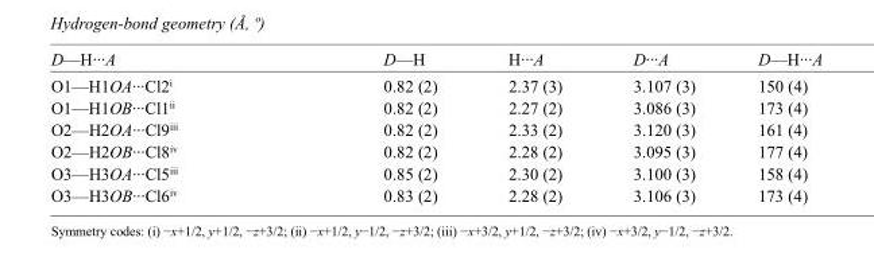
<table><tbody><tr><td>D—H···A</td><td>D—H</td><td>H···A</td><td>D···A</td><td>D—H···A</td></tr><tr><td>O1—H1OA···Cl2<sup>i</sup></td><td>0.82 (2)</td><td>2.37 (3)</td><td>3.107 (3)</td><td>150 (4)</td></tr><tr><td>O1—H1OB···Cl1<sup>ii</sup></td><td>0.82 (2)</td><td>2.27 (2)</td><td>3.086 (3)</td><td>173 (4)</td></tr><tr><td>O2—H2OA···Cl9<sup>iii</sup></td><td>0.82 (2)</td><td>2.33 (2)</td><td>3.120 (3)</td><td>161 (4)</td></tr><tr><td>O2—H2OB···Cl8<sup>iv</sup></td><td>0.82 (2)</td><td>2.28 (2)</td><td>3.095 (3)</td><td>177 (4)</td></tr><tr><td>O3—H3OA···Cl5<sup>iii</sup></td><td>0.85 (2)</td><td>2.30 (2)</td><td>3.100 (3)</td><td>158 (4)</td></tr><tr><td>O3—H3OB···Cl6<sup>iv</sup></td><td>0.83 (2)</td><td>2.28 (2)</td><td>3.106 (3)</td><td>173 (4)</td></tr></tbody></table>